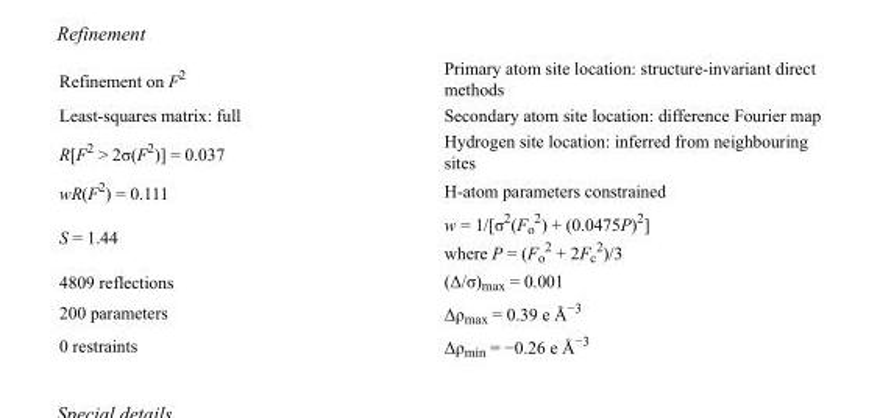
<table><tbody><tr><td>Refinement on F<sup>2</sup></td><td>Primary atom site location: structure-invariant direct methods</td></tr><tr><td>Least-squares matrix: full</td><td>Secondary atom site location: difference Fourier map</td></tr><tr><td>R[F<sup>2</sup> &gt; 2σ(F<sup>2</sup>)] = 0.037</td><td>Hydrogen site location: inferred from neighbouring sites</td></tr><tr><td>wR(F<sup>2</sup>) = 0.111</td><td>H-atom parameters constrained</td></tr><tr><td>S = 1.44</td><td>w = 1/[σ<sup>2</sup>(F<sub>o</sub> <sup>2</sup>) + (0.0475P)<sup>2</sup>] where P = (F<sub>o</sub> <sup>2</sup> + 2F<sub>c</sub> <sup>2</sup>)/3</td></tr><tr><td>4809 reflections</td><td>(Δ/σ)<sub>max</sub> = 0.001</td></tr><tr><td>200 parameters</td><td>Δρ<sub>max</sub> = 0.39 e Å<sup>−3</sup></td></tr><tr><td>0 restraints</td><td>Δρ<sub>min</sub> = −0.26 e Å<sup>−3</sup></td></tr></tbody></table>